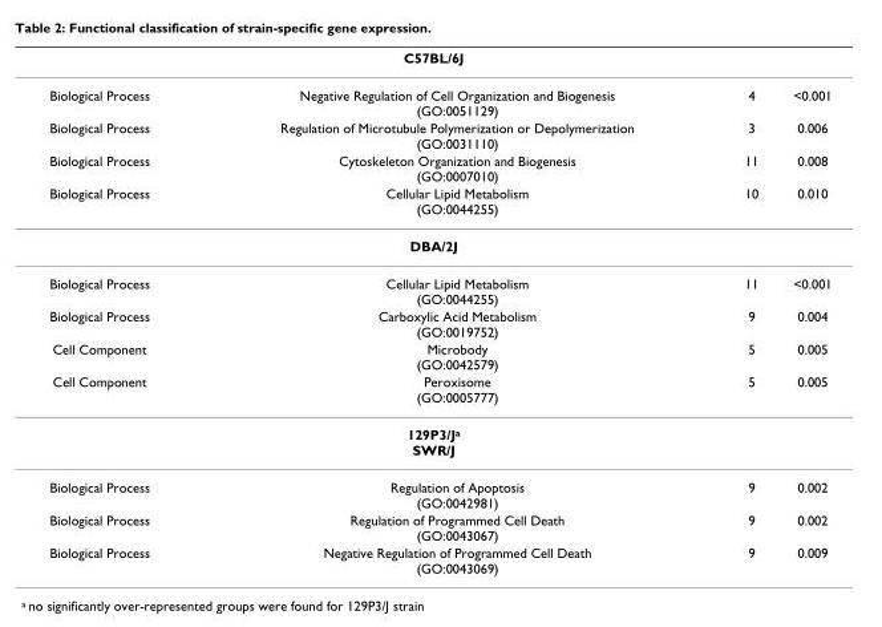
<table><thead><tr><td colspan="4">C57BL/6J</td></tr><tr><td>Biological Process</td><td>Negative Regulation of Cell Organization and Biogenesis (GO:0051129)</td><td>4</td><td>&lt;0.001</td></tr></thead><tbody><tr><td>Biological Process</td><td>Regulation of Microtubule Polymerization or Depolymerization (GO:0031110)</td><td>3</td><td>0.006</td></tr><tr><td>Biological Process</td><td>Cytoskeleton Organization and Biogenesis (GO:0007010)</td><td>11</td><td>0.008</td></tr><tr><td>Biological Process</td><td>Cellular Lipid Metabolism (GO:0044255)</td><td>10</td><td>0.010</td></tr><tr><td colspan="4">DBA/2J</td></tr><tr><td>Biological Process</td><td>Cellular Lipid Metabolism (GO:0044255)</td><td>11</td><td>&lt;0.001</td></tr><tr><td>Biological Process</td><td>Carboxylic Acid Metabolism (GO:0019752)</td><td>9</td><td>0.004</td></tr><tr><td>Cell Component</td><td>Microbody (GO:0042579)</td><td>5</td><td>0.005</td></tr><tr><td>Cell Component</td><td>Peroxisome (GO:0005777)</td><td>5</td><td>0.005</td></tr><tr><td colspan="4">129P3/Ja SWR/J</td></tr><tr><td>Biological Process</td><td>Regulation of Apoptosis (GO:0042981)</td><td>9</td><td>0.002</td></tr><tr><td>Biological Process</td><td>Regulation of Programmed Cell Death (GO:0043067)</td><td>9</td><td>0.002</td></tr><tr><td>Biological Process</td><td>Negative Regulation of Programmed Cell Death (GO:0043069)</td><td>9</td><td>0.009</td></tr></tbody></table>